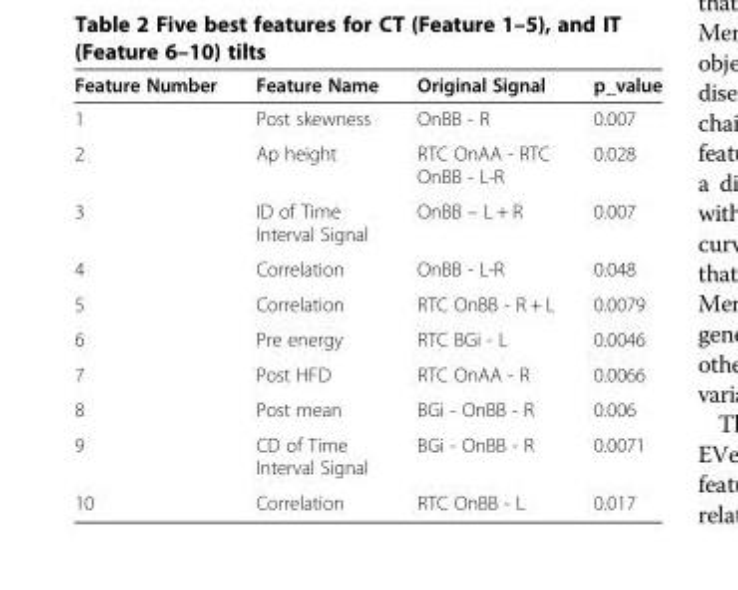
<table><thead><tr><td>Feature Number</td><td>Feature Name</td><td>Original Signal</td><td>p_value</td></tr></thead><tbody><tr><td>1</td><td>Post skewness</td><td>OnBB - R</td><td>0.007</td></tr><tr><td>2</td><td>Ap height</td><td>RTC OnAA - RTC OnBB - L-R</td><td>0.028</td></tr><tr><td>3</td><td>ID of Time Interval Signal</td><td>OnBB – L + R</td><td>0.007</td></tr><tr><td>4</td><td>Correlation</td><td>OnBB - L-R</td><td>0.048</td></tr><tr><td>5</td><td>Correlation</td><td>RTC OnBB - R + L</td><td>0.0079</td></tr><tr><td>6</td><td>Pre energy</td><td>RTC BGi - L</td><td>0.0046</td></tr><tr><td>7</td><td>Post HFD</td><td>RTC OnAA - R</td><td>0.0066</td></tr><tr><td>8</td><td>Post mean</td><td>BGi - OnBB - R</td><td>0.006</td></tr><tr><td>9</td><td>CD of Time Interval Signal</td><td>BGi - OnBB - R</td><td>0.0071</td></tr><tr><td>10</td><td>Correlation</td><td>RTC OnBB - L</td><td>0.017</td></tr></tbody></table>